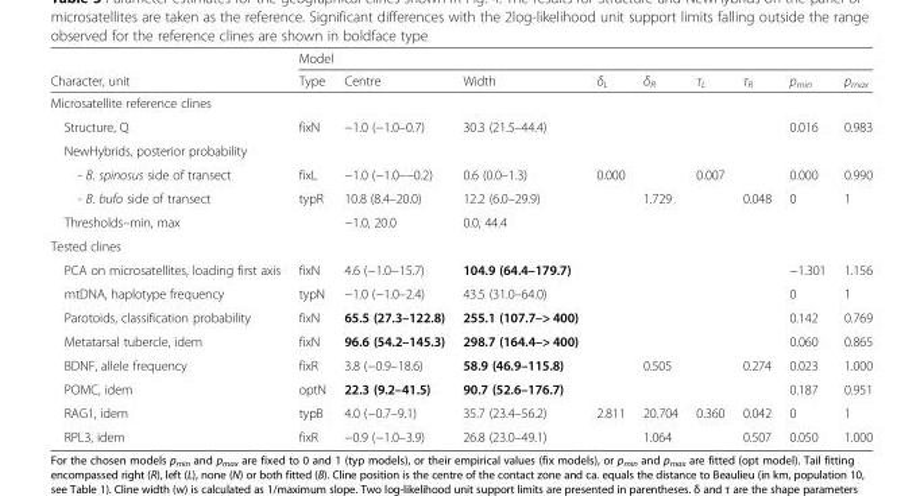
<table><thead><tr><td rowspan="2">Character, unit</td><td colspan="9">Model</td></tr><tr><td>Type</td><td>Centre</td><td>Width</td><td>δ<sub>L</sub></td><td>δ<sub>R</sub></td><td>τ<sub>L</sub></td><td>τ<sub>R</sub></td><td>p<sub>min</sub></td><td>p<sub>max</sub></td></tr></thead><tbody><tr><td colspan="10">Microsatellite reference clines</td></tr><tr><td>Structure, Q</td><td>fixN</td><td>−1.0 (−1.0–0.7)</td><td>30.3 (21.5–44.4)</td><td></td><td></td><td></td><td></td><td>0.016</td><td>0.983</td></tr><tr><td colspan="10">NewHybrids, posterior probability</td></tr><tr><td>- B. spinosus side of transect</td><td>fixL</td><td>−1.0 (−1.0–−0.2)</td><td>0.6 (0.0–1.3)</td><td>0.000</td><td></td><td>0.007</td><td></td><td>0.000</td><td>0.990</td></tr><tr><td>- B. bufo side of transect</td><td>typR</td><td>10.8 (8.4–20.0)</td><td>12.2 (6.0–29.9)</td><td></td><td>1.729</td><td></td><td>0.048</td><td>0</td><td>1</td></tr><tr><td>Thresholds–min, max</td><td></td><td>−1.0, 20.0</td><td>0.0, 44.4</td><td></td><td></td><td></td><td></td><td></td><td></td></tr><tr><td colspan="10">Tested clines</td></tr><tr><td>PCA on microsatellites, loading first axis</td><td>fixN</td><td>4.6 (−1.0−15.7)</td><td>104.9 (64.4–179.7)</td><td></td><td></td><td></td><td></td><td>−1.301</td><td>1.156</td></tr><tr><td>mtDNA, haplotype frequency</td><td>typN</td><td>−1.0 (−1.0–2.4)</td><td>43.5 (31.0–64.0)</td><td></td><td></td><td></td><td></td><td>0</td><td>1</td></tr><tr><td>Parotoids, classification probability</td><td>fixN</td><td>65.5 (27.3–122.8)</td><td>255.1 (107.7–&gt; 400)</td><td></td><td></td><td></td><td></td><td>0.142</td><td>0.769</td></tr><tr><td>Metatarsal tubercle, idem</td><td>fixN</td><td>96.6 (54.2–145.3)</td><td>298.7 (164.4–&gt; 400)</td><td></td><td></td><td></td><td></td><td>0.060</td><td>0.865</td></tr><tr><td>BDNF, allele frequency</td><td>fixR</td><td>3.8 (−0.9–18.6)</td><td>58.9 (46.9–115.8)</td><td></td><td>0.505</td><td></td><td>0.274</td><td>0.023</td><td>1.000</td></tr><tr><td>POMC, idem</td><td>optN</td><td>22.3 (9.2–41.5)</td><td>90.7 (52.6–176.7)</td><td></td><td></td><td></td><td></td><td>0.187</td><td>0.951</td></tr><tr><td>RAG1, idem</td><td>typB</td><td>4.0 (−0.7–9.1)</td><td>35.7 (23.4–56.2)</td><td>2.811</td><td>20.704</td><td>0.360</td><td>0.042</td><td>0</td><td>1</td></tr><tr><td>RPL3, idem</td><td>fixR</td><td>−0.9 (−1.0–3.9)</td><td>26.8 (23.0–49.1)</td><td></td><td>1.064</td><td></td><td>0.507</td><td>0.050</td><td>1.000</td></tr></tbody></table>